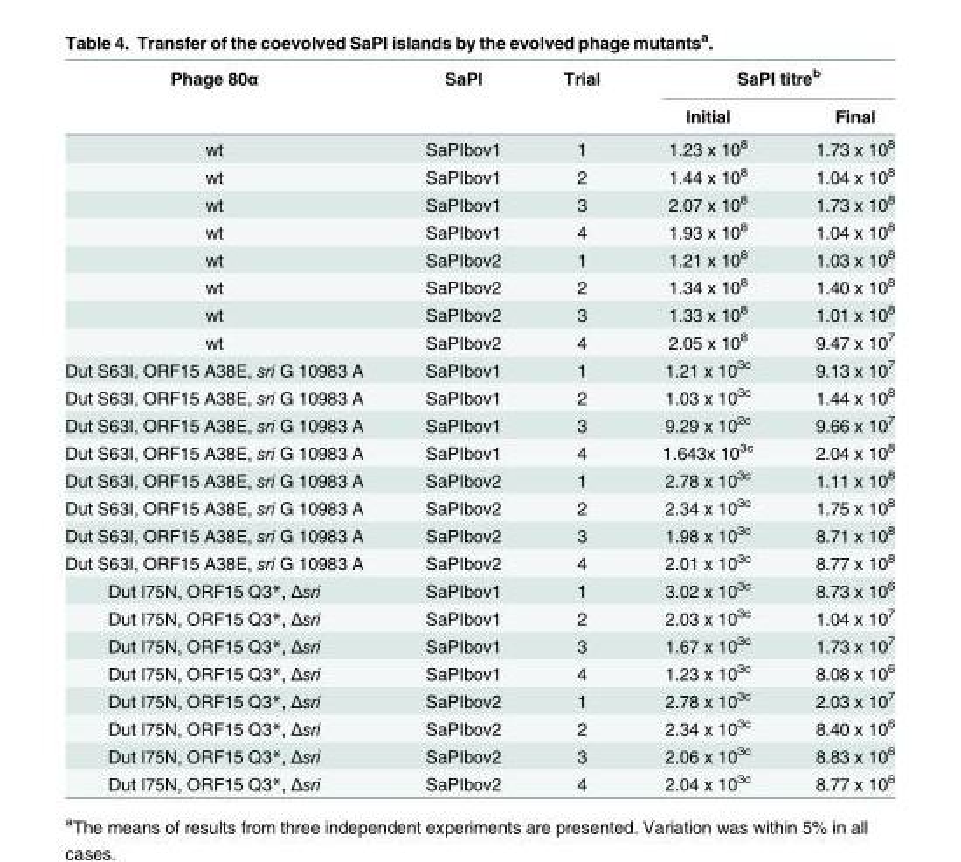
<table><thead><tr><td rowspan="2">Phage 80α</td><td rowspan="2">SaPI</td><td rowspan="2">Trial</td><td colspan="2">SaPI titre<sup>b</sup></td></tr><tr><td>Initial</td><td>Final</td></tr></thead><tbody><tr><td>wt</td><td>SaPIbov1</td><td>1</td><td>1.23 x 10<sup>8</sup></td><td>1.73 x 10<sup>8</sup></td></tr><tr><td>wt</td><td>SaPIbov1</td><td>2</td><td>1.44 x 10<sup>8</sup></td><td>1.04 x 10<sup>8</sup></td></tr><tr><td>wt</td><td>SaPIbov1</td><td>3</td><td>2.07 x 10<sup>8</sup></td><td>1.73 x 10<sup>8</sup></td></tr><tr><td>wt</td><td>SaPIbov1</td><td>4</td><td>1.93 x 10<sup>8</sup></td><td>1.04 x 10<sup>8</sup></td></tr><tr><td>wt</td><td>SaPIbov2</td><td>1</td><td>1.21 x 10<sup>8</sup></td><td>1.03 x 10<sup>8</sup></td></tr><tr><td>wt</td><td>SaPIbov2</td><td>2</td><td>1.34 x 10<sup>8</sup></td><td>1.40 x 10<sup>8</sup></td></tr><tr><td>wt</td><td>SaPIbov2</td><td>3</td><td>1.33 x 10<sup>8</sup></td><td>1.01 x 10<sup>8</sup></td></tr><tr><td>wt</td><td>SaPIbov2</td><td>4</td><td>2.05 x 10<sup>8</sup></td><td>9.47 x 10<sup>7</sup></td></tr><tr><td>Dut S63I, ORF15 A38E, sri G 10983 A</td><td>SaPIbov1</td><td>1</td><td>1.21 x 10<sup>3c</sup></td><td>9.13 x 10<sup>7</sup></td></tr><tr><td>Dut S63I, ORF15 A38E, sri G 10983 A</td><td>SaPIbov1</td><td>2</td><td>1.03 x 10<sup>3c</sup></td><td>1.44 x 10<sup>8</sup></td></tr><tr><td>Dut S63I, ORF15 A38E, sri G 10983 A</td><td>SaPIbov1</td><td>3</td><td>9.29 x 10<sup>2c</sup></td><td>9.66 x 10<sup>7</sup></td></tr><tr><td>Dut S63I, ORF15 A38E, sri G 10983 A</td><td>SaPIbov1</td><td>4</td><td>1.643x 10<sup>3c</sup></td><td>2.04 x 10<sup>8</sup></td></tr><tr><td>Dut S63I, ORF15 A38E, sri G 10983 A</td><td>SaPIbov2</td><td>1</td><td>2.78 x 10<sup>3c</sup></td><td>1.11 x 10<sup>8</sup></td></tr><tr><td>Dut S63I, ORF15 A38E, sri G 10983 A</td><td>SaPIbov2</td><td>2</td><td>2.34 x 10<sup>3c</sup></td><td>1.75 x 10<sup>8</sup></td></tr><tr><td>Dut S63I, ORF15 A38E, sri G 10983 A</td><td>SaPIbov2</td><td>3</td><td>1.98 x 10<sup>3c</sup></td><td>8.71 x 10<sup>8</sup></td></tr><tr><td>Dut S63I, ORF15 A38E, sri G 10983 A</td><td>SaPIbov2</td><td>4</td><td>2.01 x 10<sup>3c</sup></td><td>8.77 x 10<sup>8</sup></td></tr><tr><td>Dut I75N, ORF15 Q3*, Δsri</td><td>SaPIbov1</td><td>1</td><td>3.02 x 10<sup>3c</sup></td><td>8.73 x 10<sup>6</sup></td></tr><tr><td>Dut I75N, ORF15 Q3*, Δsri</td><td>SaPIbov1</td><td>2</td><td>2.03 x 10<sup>3c</sup></td><td>1.04 x 10<sup>7</sup></td></tr><tr><td>Dut I75N, ORF15 Q3*, Δsri</td><td>SaPIbov1</td><td>3</td><td>1.67 x 10<sup>3c</sup></td><td>1.73 x 10<sup>7</sup></td></tr><tr><td>Dut I75N, ORF15 Q3*, Δsri</td><td>SaPIbov1</td><td>4</td><td>1.23 x 10<sup>3c</sup></td><td>8.08 x 10<sup>6</sup></td></tr><tr><td>Dut I75N, ORF15 Q3*, Δsri</td><td>SaPIbov2</td><td>1</td><td>2.78 x 10<sup>3c</sup></td><td>2.03 x 10<sup>7</sup></td></tr><tr><td>Dut I75N, ORF15 Q3*, Δsri</td><td>SaPIbov2</td><td>2</td><td>2.34 x 10<sup>3c</sup></td><td>8.40 x 10<sup>6</sup></td></tr><tr><td>Dut I75N, ORF15 Q3*, Δsri</td><td>SaPIbov2</td><td>3</td><td>2.06 x 10<sup>3c</sup></td><td>8.83 x 10<sup>6</sup></td></tr><tr><td>Dut I75N, ORF15 Q3*, Δsri</td><td>SaPIbov2</td><td>4</td><td>2.04 x 10<sup>3c</sup></td><td>8.77 x 10<sup>6</sup></td></tr></tbody></table>